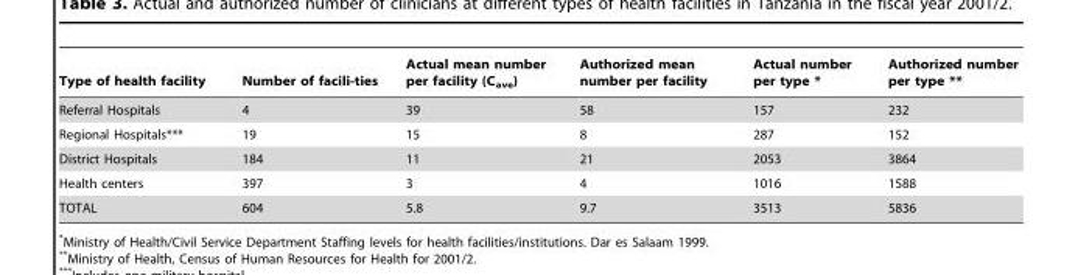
<table><thead><tr><td>Type of health facility</td><td>Number of facili-ties</td><td>Actual mean number per facility (C<sub>ave</sub>)</td><td>Authorized mean number per facility</td><td>Actual number per type *</td><td>Authorized number per type **</td></tr></thead><tbody><tr><td>Referral Hospitals</td><td>4</td><td>39</td><td>58</td><td>157</td><td>232</td></tr><tr><td>Regional Hospitals***</td><td>19</td><td>15</td><td>8</td><td>287</td><td>152</td></tr><tr><td>District Hospitals</td><td>184</td><td>11</td><td>21</td><td>2053</td><td>3864</td></tr><tr><td>Health centers</td><td>397</td><td>3</td><td>4</td><td>1016</td><td>1588</td></tr><tr><td>TOTAL</td><td>604</td><td>5.8</td><td>9.7</td><td>3513</td><td>5836</td></tr></tbody></table>